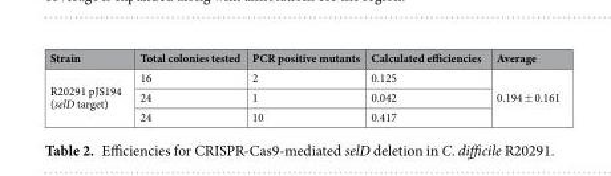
<table><thead><tr><td>Strain</td><td>Total colonies tested</td><td>PCR positive mutants</td><td>Calculated efficiencies</td><td>Average</td></tr></thead><tbody><tr><td rowspan="3">R20291 pJS194 (selD target)</td><td>16</td><td>2</td><td>0.125</td><td rowspan="3">0.194 ± 0.161</td></tr><tr><td>24</td><td>1</td><td>0.042</td></tr><tr><td>24</td><td>10</td><td>0.417</td></tr></tbody></table>